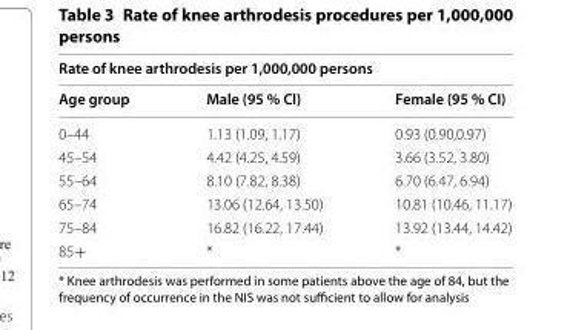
<table><thead><tr><td colspan="3">Rate of knee arthrodesis per 1,000,000 persons</td></tr><tr><td>Age group</td><td>Male (95 % Cl)</td><td>Female (95 % CI)</td></tr></thead><tbody><tr><td>0–44</td><td>1.13 (1.09, 1.17)</td><td>0.93 (0.90,0.97)</td></tr><tr><td>45–54</td><td>4.42 (4.25, 4.59)</td><td>3.66 (3.52, 3.80)</td></tr><tr><td>55–64</td><td>8.10 (7.82, 8.38)</td><td>6.70 (6.47, 6.94)</td></tr><tr><td>65–74</td><td>13.06 (12.64, 13.50)</td><td>10.81 (10.46, 11.17)</td></tr><tr><td>75–84</td><td>16.82 (16.22, 17.44)</td><td>13.92 (13.44, 14.42)</td></tr><tr><td>85+</td><td>*</td><td>*</td></tr></tbody></table>